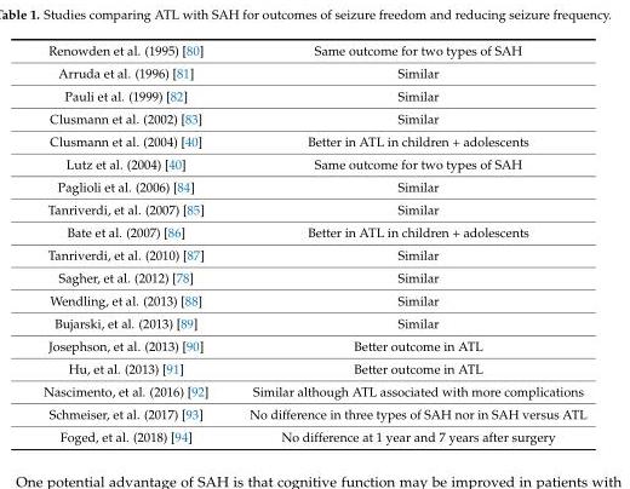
<table><tbody><tr><td>Renowden et al. (1995) [80]</td><td>Same outcome for two types of SAH</td></tr><tr><td>Arruda et al. (1996) [81]</td><td>Similar</td></tr><tr><td>Pauli et al. (1999) [82]</td><td>Similar</td></tr><tr><td>Clusmann et al. (2002) [83]</td><td>Similar</td></tr><tr><td>Clusmann et al. (2004) [40]</td><td>Better in ATL in children + adolescents</td></tr><tr><td>Lutz et al. (2004) [40]</td><td>Same outcome for two types of SAH</td></tr><tr><td>Paglioli et al. (2006) [84]</td><td>Similar</td></tr><tr><td>Tanriverdi, et al. (2007) [85]</td><td>Similar</td></tr><tr><td>Bate et al. (2007) [86]</td><td>Better in ATL in children + adolescents</td></tr><tr><td>Tanriverdi, et al. (2010) [87]</td><td>Similar</td></tr><tr><td>Sagher, et al. (2012) [78]</td><td>Similar</td></tr><tr><td>Wendling, et al. (2013) [88]</td><td>Similar</td></tr><tr><td>Bujarski, et al. (2013) [89]</td><td>Similar</td></tr><tr><td>Josephson, et al. (2013) [90]</td><td>Better outcome in ATL</td></tr><tr><td>Hu, et al. (2013) [91]</td><td>Better outcome in ATL</td></tr><tr><td>Nascimento, et al. (2016) [92]</td><td>Similar although ATL associated with more complications</td></tr><tr><td>Schmeiser, et al. (2017) [93]</td><td>No difference in three types of SAH nor in SAH versus ATL</td></tr><tr><td>Foged, et al. (2018) [94]</td><td>No difference at 1 year and 7 years after surgery</td></tr></tbody></table>